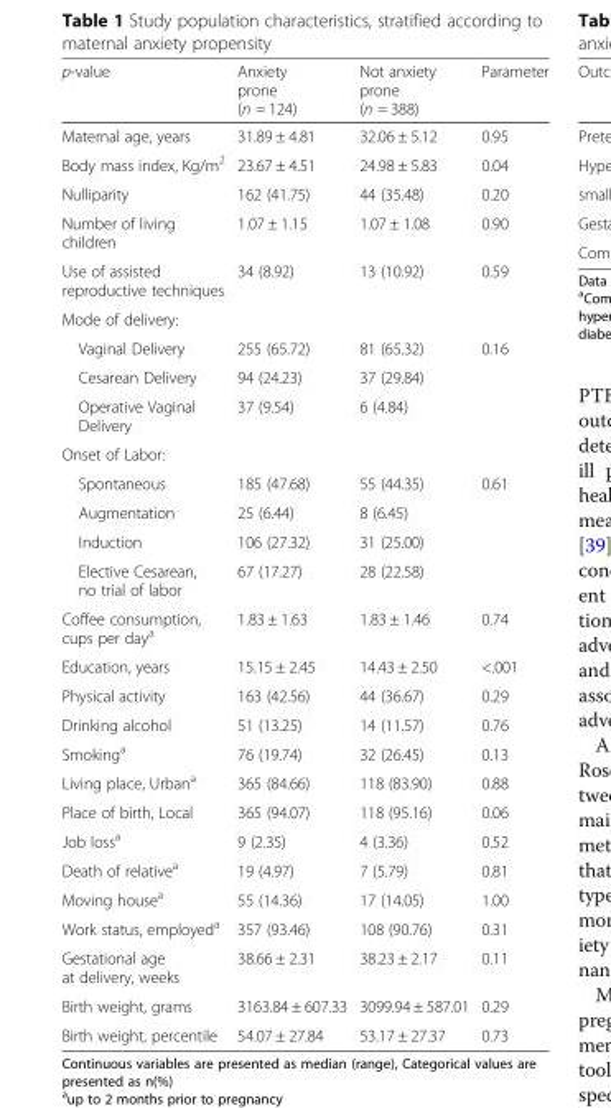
<table><thead><tr><td>p-value</td><td>Anxiety prone (n = 124)</td><td>Not anxiety prone (n = 388)</td><td>Parameter</td></tr></thead><tbody><tr><td>Maternal age, years</td><td>31.89 ± 4.81</td><td>32.06 ± 5.12</td><td>0.95</td></tr><tr><td>Body mass index, Kg/m<sup>2</sup></td><td>23.67 ± 4.51</td><td>24.98 ± 5.83</td><td>0.04</td></tr><tr><td>Nulliparity</td><td>162 (41.75)</td><td>44 (35.48)</td><td>0.20</td></tr><tr><td>Number of living children</td><td>1.07 ± 1.15</td><td>1.07 ± 1.08</td><td>0.90</td></tr><tr><td>Use of assisted reproductive techniques</td><td>34 (8.92)</td><td>13 (10.92)</td><td>0.59</td></tr><tr><td colspan="4">Mode of delivery:</td></tr><tr><td>Vaginal Delivery</td><td>255 (65.72)</td><td>81 (65.32)</td><td rowspan="3">0.16</td></tr><tr><td>Cesarean Delivery</td><td>94 (24.23)</td><td>37 (29.84)</td></tr><tr><td>Operative Vaginal Delivery</td><td>37 (9.54)</td><td>6 (4.84)</td></tr><tr><td colspan="4">Onset of Labor:</td></tr><tr><td>Spontaneous</td><td>185 (47.68)</td><td>55 (44.35)</td><td rowspan="4">0.61</td></tr><tr><td>Augmentation</td><td>25 (6.44)</td><td>8 (6.45)</td></tr><tr><td>Induction</td><td>106 (27.32)</td><td>31 (25.00)</td></tr><tr><td>Elective Cesarean, no trial of labor</td><td>67 (17.27)</td><td>28 (22.58)</td></tr><tr><td>Coffee consumption, cups per day<sup>a</sup></td><td>1.83 ± 1.63</td><td>1.83 ± 1.46</td><td>0.74</td></tr><tr><td>Education, years</td><td>15.15 ± 2.45</td><td>14.43 ± 2.50</td><td>&lt;.001</td></tr><tr><td>Physical activity</td><td>163 (42.56)</td><td>44 (36.67)</td><td>0.29</td></tr><tr><td>Drinking alcohol</td><td>51 (13.25)</td><td>14 (11.57)</td><td>0.76</td></tr><tr><td>Smoking<sup>a</sup></td><td>76 (19.74)</td><td>32 (26.45)</td><td>0.13</td></tr><tr><td>Living place, Urban<sup>a</sup></td><td>365 (84.66)</td><td>118 (83.90)</td><td>0.88</td></tr><tr><td>Place of birth, Local</td><td>365 (94.07)</td><td>118 (95.16)</td><td>0.06</td></tr><tr><td>Job loss<sup>a</sup></td><td>9 (2.35)</td><td>4 (3.36)</td><td>0.52</td></tr><tr><td>Death of relative<sup>a</sup></td><td>19 (4.97)</td><td>7 (5.79)</td><td>0.81</td></tr><tr><td>Moving house<sup>a</sup></td><td>55 (14.36)</td><td>17 (14.05)</td><td>1.00</td></tr><tr><td>Work status, employed<sup>a</sup></td><td>357 (93.46)</td><td>108 (90.76)</td><td>0.31</td></tr><tr><td>Gestational age at delivery, weeks</td><td>38.66 ± 2.31</td><td>38.23 ± 2.17</td><td>0.11</td></tr><tr><td>Birth weight, grams</td><td>3163.84 ± 607.33</td><td>3099.94 ± 587.01</td><td>0.29</td></tr><tr><td>Birth weight, percentile</td><td>54.07 ± 27.84</td><td>53.17 ± 27.37</td><td>0.73</td></tr></tbody></table>